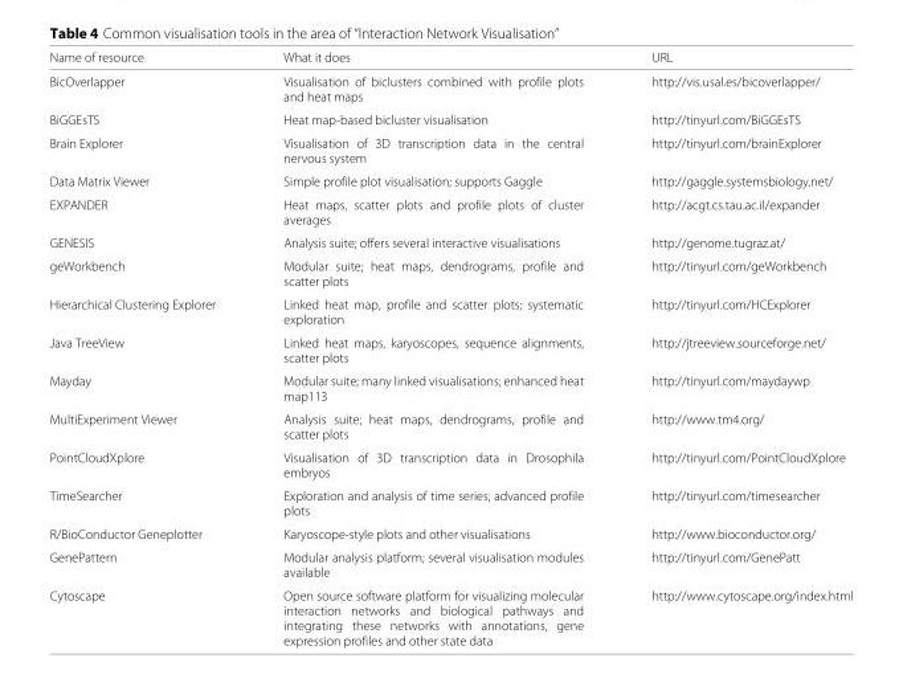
<table><thead><tr><td>Name of resource</td><td>What it does</td><td>URL</td></tr></thead><tbody><tr><td>BicOverlapper</td><td>Visualisation of biclusters combined with profile plots and heat maps</td><td>http://vis.usal.es/bicoverlapper/</td></tr><tr><td>BiGGEsTS</td><td>Heat map-based bicluster visualisation</td><td>http://tinyurl.com/BiGGEsTS</td></tr><tr><td>Brain Explorer</td><td>Visualisation of 3D transcription data in the central nervous system</td><td>http://tinyurl.com/brainExplorer</td></tr><tr><td>Data Matrix Viewer</td><td>Simple profile plot visualisation; supports Gaggle</td><td>http://gaggle.systemsbiology.net/</td></tr><tr><td>EXPANDER</td><td>Heat maps, scatter plots and profile plots of cluster averages</td><td>http://acgt.cs.tau.ac.il/expander</td></tr><tr><td>GENESIS</td><td>Analysis suite; offers several interactive visualisations</td><td>http://genome.tugraz.at/</td></tr><tr><td>geWorkbench</td><td>Modular suite; heat maps, dendrograms, profile and scatter plots</td><td>http://tinyurl.com/geWorkbench</td></tr><tr><td>Hierarchical Clustering Explorer</td><td>Linked heat map, profile and scatter plots; systematic exploration</td><td>http://tinyurl.com/HCExplorer</td></tr><tr><td>Java TreeView</td><td>Linked heat maps, karyoscopes, sequence alignments, scatter plots</td><td>http://jtreeview.sourceforge.net/</td></tr><tr><td>Mayday</td><td>Modular suite; many linked visualisations; enhanced heat map113</td><td>http://tinyurl.com/maydaywp</td></tr><tr><td>MultiExperiment Viewer</td><td>Analysis suite; heat maps, dendrograms, profile and scatter plots</td><td>http://www.tm4.org/</td></tr><tr><td>PointCloudXplore</td><td>Visualisation of 3D transcription data in Drosophila embryos</td><td>http://tinyurl.com/PointCloudXplore</td></tr><tr><td>TimeSearcher</td><td>Exploration and analysis of time series; advanced profile plots</td><td>http://tinyurl.com/timesearcher</td></tr><tr><td>R/BioConductor Geneplotter</td><td>Karyoscope-style plots and other visualisations</td><td>http://www.bioconductor.org/</td></tr><tr><td>GenePattern</td><td>Modular analysis platform; several visualisation modules available</td><td>http://tinyurl.com/GenePatt</td></tr><tr><td>Cytoscape</td><td>Open source software platform for visualizing molecular interaction networks and biological pathways and integrating these networks with annotations, gene expression profiles and other state data</td><td>http://www.cytoscape.org/index.html</td></tr></tbody></table>